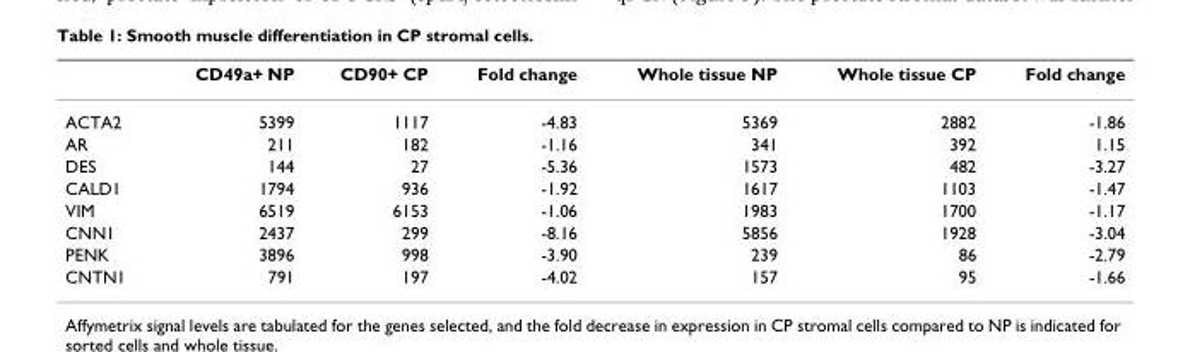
<table><thead><tr><td></td><td>CD49a+ NP</td><td>CD90+ CP</td><td>Fold change</td><td>Whole tissue NP</td><td>Whole tissue CP</td><td>Fold change</td></tr></thead><tbody><tr><td>ACTA2</td><td>5399</td><td>1117</td><td>-4.83</td><td>5369</td><td>2882</td><td>-1.86</td></tr><tr><td>AR</td><td>211</td><td>182</td><td>-1.16</td><td>341</td><td>392</td><td>1.15</td></tr><tr><td>DES</td><td>144</td><td>27</td><td>-5.36</td><td>1573</td><td>482</td><td>-3.27</td></tr><tr><td>CALD1</td><td>1794</td><td>936</td><td>-1.92</td><td>1617</td><td>1103</td><td>-1.47</td></tr><tr><td>VIM</td><td>6519</td><td>6153</td><td>-1.06</td><td>1983</td><td>1700</td><td>-1.17</td></tr><tr><td>CNN1</td><td>2437</td><td>299</td><td>-8.16</td><td>5856</td><td>1928</td><td>-3.04</td></tr><tr><td>PENK</td><td>3896</td><td>998</td><td>-3.90</td><td>239</td><td>86</td><td>-2.79</td></tr><tr><td>CNTN1</td><td>791</td><td>197</td><td>-4.02</td><td>157</td><td>95</td><td>-1.66</td></tr></tbody></table>